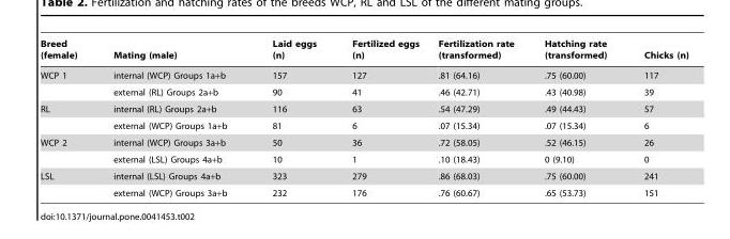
<table><thead><tr><td>Breed (female)</td><td>Mating (male)</td><td>Laid eggs (n)</td><td>Fertilized eggs (n)</td><td>Fertilization rate (transformed)</td><td>Hatching rate (transformed)</td><td>Chicks (n)</td></tr></thead><tbody><tr><td rowspan="2">WCP 1</td><td>internal (WCP) Groups 1a+b</td><td>157</td><td>127</td><td>.81 (64.16)</td><td>.75 (60.00)</td><td>117</td></tr><tr><td>external (RL) Groups 2a+b</td><td>90</td><td>41</td><td>.46 (42.71)</td><td>.43 (40.98)</td><td>39</td></tr><tr><td rowspan="2">RL</td><td>internal (RL) Groups 2a+b</td><td>116</td><td>63</td><td>.54 (47.29)</td><td>.49 (44.43)</td><td>57</td></tr><tr><td>external (WCP) Groups 1a+b</td><td>81</td><td>6</td><td>.07 (15.34)</td><td>.07 (15.34)</td><td>6</td></tr><tr><td rowspan="2">WCP 2</td><td>internal (WCP) Groups 3a+b</td><td>50</td><td>36</td><td>.72 (58.05)</td><td>.52 (46.15)</td><td>26</td></tr><tr><td>external (LSL) Groups 4a+b</td><td>10</td><td>1</td><td>.10 (18.43)</td><td>0 (9.10)</td><td>0</td></tr><tr><td rowspan="2">LSL</td><td>internal (LSL) Groups 4a+b</td><td>323</td><td>279</td><td>.86 (68.03)</td><td>.75 (60.00)</td><td>241</td></tr><tr><td>external (WCP) Groups 3a+b</td><td>232</td><td>176</td><td>.76 (60.67)</td><td>.65 (53.73)</td><td>151</td></tr></tbody></table>